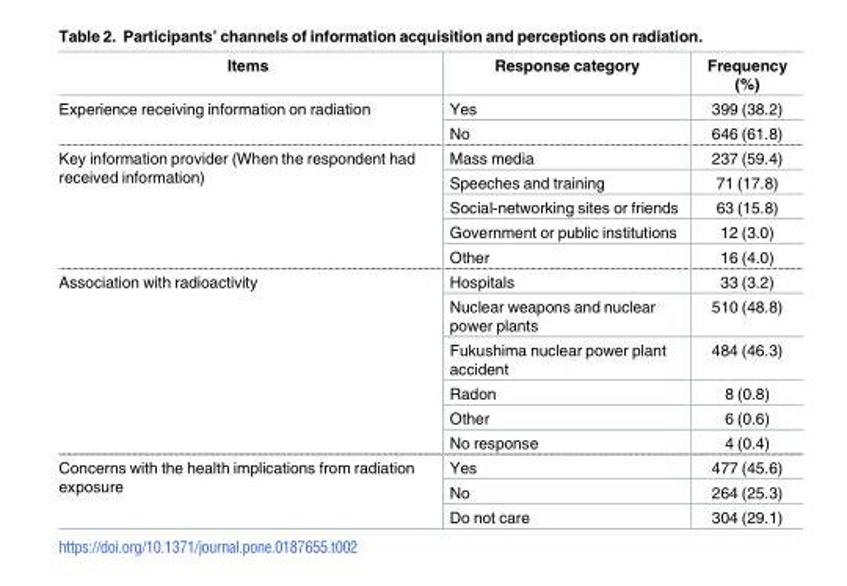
<table><thead><tr><td>Items</td><td>Response category</td><td>Frequency (%)</td></tr></thead><tbody><tr><td rowspan="2">Experience receiving information on radiation</td><td>Yes</td><td>399 (38.2)</td></tr><tr><td>No</td><td>646 (61.8)</td></tr><tr><td rowspan="5">Key information provider (When the respondent had received information)</td><td>Mass media</td><td>237 (59.4)</td></tr><tr><td>Speeches and training</td><td>71 (17.8)</td></tr><tr><td>Social-networking sites or friends</td><td>63 (15.8)</td></tr><tr><td>Government or public institutions</td><td>12 (3.0)</td></tr><tr><td>Other</td><td>16 (4.0)</td></tr><tr><td rowspan="6">Association with radioactivity</td><td>Hospitals</td><td>33 (3.2)</td></tr><tr><td>Nuclear weapons and nuclear power plants</td><td>510 (48.8)</td></tr><tr><td>Fukushima nuclear power plant accident</td><td>484 (46.3)</td></tr><tr><td>Radon</td><td>8 (0.8)</td></tr><tr><td>Other</td><td>6 (0.6)</td></tr><tr><td>No response</td><td>4 (0.4)</td></tr><tr><td rowspan="3">Concerns with the health implications from radiation exposure</td><td>Yes</td><td>477 (45.6)</td></tr><tr><td>No</td><td>264 (25.3)</td></tr><tr><td>Do not care</td><td>304 (29.1)</td></tr></tbody></table>